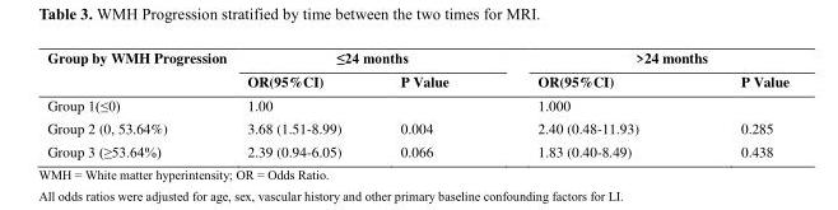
<table><thead><tr><td rowspan="2">Group by WMH Progression</td><td colspan="2">≤24 months</td><td colspan="2">&gt;24 months</td></tr><tr><td>OR(95%CI)</td><td>P Value</td><td>OR(95%CI)</td><td>P Value</td></tr></thead><tbody><tr><td>Group 1(≤0)</td><td>1.00</td><td></td><td>1.000</td><td></td></tr><tr><td>Group 2 (0, 53.64%)</td><td>3.68 (1.51-8.99)</td><td>0.004</td><td>2.40 (0.48-11.93)</td><td>0.285</td></tr><tr><td>Group 3 (≥53.64%)</td><td>2.39 (0.94-6.05)</td><td>0.066</td><td>1.83 (0.40-8.49)</td><td>0.438</td></tr></tbody></table>